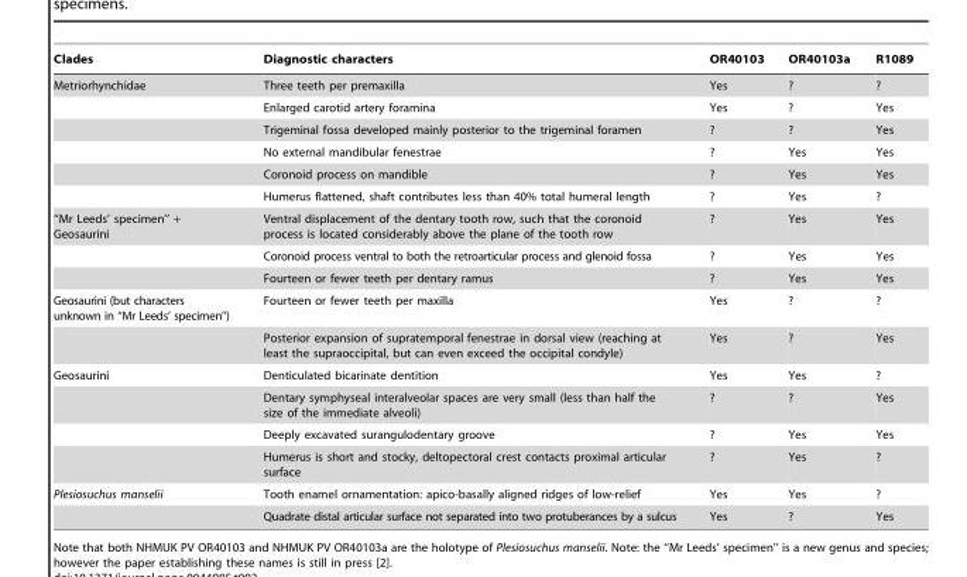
<table><thead><tr><td>Clades</td><td>Diagnostic characters</td><td>OR40103</td><td>OR40103a</td><td>R1089</td></tr></thead><tbody><tr><td rowspan="6">Metriorhynchidae</td><td>Three teeth per premaxilla</td><td>Yes</td><td>?</td><td>?</td></tr><tr><td>Enlarged carotid artery foramina</td><td>Yes</td><td>?</td><td>Yes</td></tr><tr><td>Trigeminal fossa developed mainly posterior to the trigeminal foramen</td><td>?</td><td>?</td><td>Yes</td></tr><tr><td>No external mandibular fenestrae</td><td>?</td><td>Yes</td><td>Yes</td></tr><tr><td>Coronoid process on mandible</td><td>?</td><td>Yes</td><td>Yes</td></tr><tr><td>Humerus flattened, shaft contributes less than 40% total humeral length</td><td>?</td><td>Yes</td><td>?</td></tr><tr><td rowspan="3">‘‘Mr Leeds’ specimen’’ + Geosaurini</td><td>Ventral displacement of the dentary tooth row, such that the coronoid process is located considerably above the plane of the tooth row</td><td>?</td><td>Yes</td><td>Yes</td></tr><tr><td>Coronoid process ventral to both the retroarticular process and glenoid fossa</td><td>?</td><td>Yes</td><td>Yes</td></tr><tr><td>Fourteen or fewer teeth per dentary ramus</td><td>?</td><td>Yes</td><td>Yes</td></tr><tr><td rowspan="2">Geosaurini (but characters unknown in ‘‘Mr Leeds’ specimen’’)</td><td>Fourteen or fewer teeth per maxilla</td><td>Yes</td><td>?</td><td>?</td></tr><tr><td>Posterior expansion of supratemporal fenestrae in dorsal view (reaching at least the supraoccipital, but can even exceed the occipital condyle)</td><td>Yes</td><td>?</td><td>Yes</td></tr><tr><td rowspan="4">Geosaurini</td><td>Denticulated bicarinate dentition</td><td>Yes</td><td>Yes</td><td>?</td></tr><tr><td>Dentary symphyseal interalveolar spaces are very small (less than half the size of the immediate alveoli)</td><td>?</td><td>?</td><td>Yes</td></tr><tr><td>Deeply excavated surangulodentary groove</td><td>?</td><td>Yes</td><td>Yes</td></tr><tr><td>Humerus is short and stocky, deltopectoral crest contacts proximal articular surface</td><td>?</td><td>Yes</td><td>?</td></tr><tr><td rowspan="2">Plesiosuchus manselii</td><td>Tooth enamel ornamentation: apico-basally aligned ridges of low-relief</td><td>Yes</td><td>Yes</td><td>?</td></tr><tr><td>Quadrate distal articular surface not separated into two protuberances by a sulcus</td><td>Yes</td><td>?</td><td>Yes</td></tr></tbody></table>